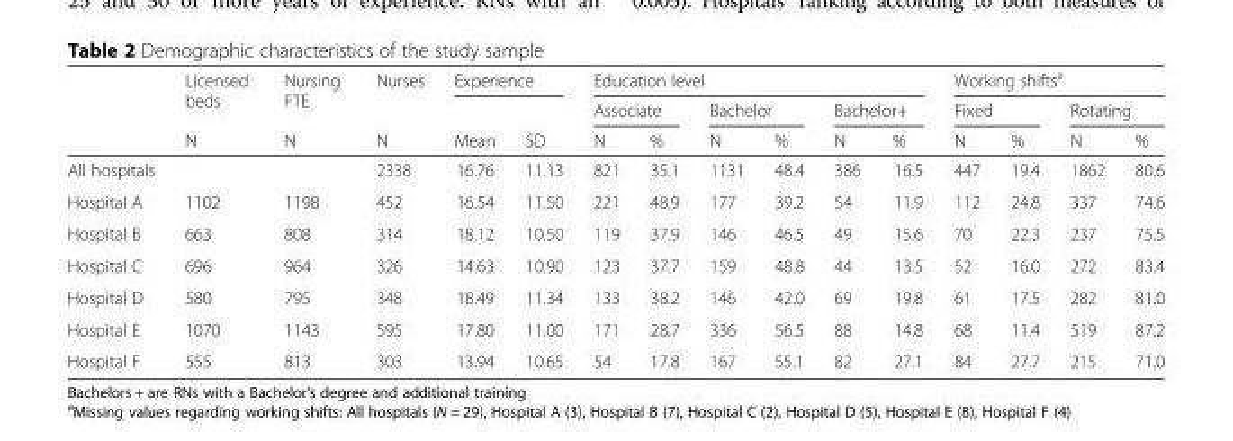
<table><thead><tr><td rowspan="3"></td><td rowspan="3">Licensed beds N</td><td rowspan="3">Nursing FTE N</td><td rowspan="3">Nurses N</td><td colspan="2">Experience</td><td colspan="6">Education level</td><td colspan="4">Working shifts<sup>a</sup></td></tr><tr><td rowspan="2">Mean</td><td rowspan="2">SD</td><td colspan="2">Associate</td><td colspan="2">Bachelor</td><td colspan="2">Bachelor+</td><td colspan="2">Fixed</td><td colspan="2">Rotating</td></tr><tr><td>N</td><td>%</td><td>N</td><td>%</td><td>N</td><td>%</td><td>N</td><td>%</td><td>N</td><td>%</td></tr></thead><tbody><tr><td>All hospitals</td><td></td><td></td><td>2338</td><td>16.76</td><td>11.13</td><td>821</td><td>35.1</td><td>1131</td><td>48.4</td><td>386</td><td>16.5</td><td>447</td><td>19.4</td><td>1862</td><td>80.6</td></tr><tr><td>Hospital A</td><td>1102</td><td>1198</td><td>452</td><td>16.54</td><td>11.50</td><td>221</td><td>48.9</td><td>177</td><td>39.2</td><td>54</td><td>11.9</td><td>112</td><td>24.8</td><td>337</td><td>74.6</td></tr><tr><td>Hospital B</td><td>663</td><td>808</td><td>314</td><td>18.12</td><td>10.50</td><td>119</td><td>37.9</td><td>146</td><td>46.5</td><td>49</td><td>15.6</td><td>70</td><td>22.3</td><td>237</td><td>75.5</td></tr><tr><td>Hospital C</td><td>696</td><td>964</td><td>326</td><td>14.63</td><td>10.90</td><td>123</td><td>37.7</td><td>159</td><td>48.8</td><td>44</td><td>13.5</td><td>52</td><td>16.0</td><td>272</td><td>83.4</td></tr><tr><td>Hospital D</td><td>580</td><td>795</td><td>348</td><td>18.49</td><td>11.34</td><td>133</td><td>38.2</td><td>146</td><td>42.0</td><td>69</td><td>19.8</td><td>61</td><td>17.5</td><td>282</td><td>81.0</td></tr><tr><td>Hospital E</td><td>1070</td><td>1143</td><td>595</td><td>17.80</td><td>11.00</td><td>171</td><td>28.7</td><td>336</td><td>56.5</td><td>88</td><td>14.8</td><td>68</td><td>11.4</td><td>519</td><td>87.2</td></tr><tr><td>Hospital F</td><td>555</td><td>813</td><td>303</td><td>13.94</td><td>10.65</td><td>54</td><td>17.8</td><td>167</td><td>55.1</td><td>82</td><td>27.1</td><td>84</td><td>27.7</td><td>215</td><td>71.0</td></tr></tbody></table>